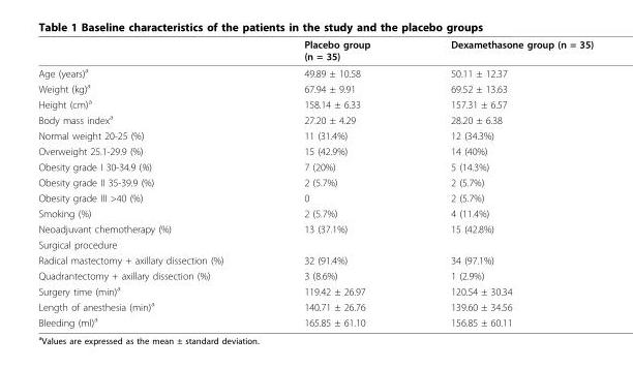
<table><thead><tr><td></td><td>Placebo group (n = 35)</td><td>Dexamethasone group (n = 35)</td></tr></thead><tbody><tr><td>Age (years)<sup>a</sup></td><td>49.89 ± 10.58</td><td>50.11 ± 12.37</td></tr><tr><td>Weight (kg)<sup>a</sup></td><td>67.94 ± 9.91</td><td>69.52 ± 13.63</td></tr><tr><td>Height (cm)<sup>a</sup></td><td>158.14 ± 6.33</td><td>157.31 ± 6.57</td></tr><tr><td>Body mass index<sup>a</sup></td><td>27.20 ± 4.29</td><td>28.20 ± 6.38</td></tr><tr><td>Normal weight 20-25 (%)</td><td>11 (31.4%)</td><td>12 (34.3%)</td></tr><tr><td>Overweight 25.1-29.9 (%)</td><td>15 (42.9%)</td><td>14 (40%)</td></tr><tr><td>Obesity grade I 30-34.9 (%)</td><td>7 (20%)</td><td>5 (14.3%)</td></tr><tr><td>Obesity grade II 35-39.9 (%)</td><td>2 (5.7%)</td><td>2 (5.7%)</td></tr><tr><td>Obesity grade III &gt;40 (%)</td><td>0</td><td>2 (5.7%)</td></tr><tr><td>Smoking (%)</td><td>2 (5.7%)</td><td>4 (11.4%)</td></tr><tr><td>Neoadjuvant chemotherapy (%)</td><td>13 (37.1%)</td><td>15 (42.8%)</td></tr><tr><td colspan="3">Surgical procedure</td></tr><tr><td>Radical mastectomy + axillary dissection (%)</td><td>32 (91.4%)</td><td>34 (97.1%)</td></tr><tr><td>Quadrantectomy + axillary dissection (%)</td><td>3 (8.6%)</td><td>1 (2.9%)</td></tr><tr><td>Surgery time (min)<sup>a</sup></td><td>119.42 ± 26.97</td><td>120.54 ± 30.34</td></tr><tr><td>Length of anesthesia (min)<sup>a</sup></td><td>140.71 ± 26.76</td><td>139.60 ± 34.56</td></tr><tr><td>Bleeding (ml)<sup>a</sup></td><td>165.85 ± 61.10</td><td>156.85 ± 60.11</td></tr></tbody></table>